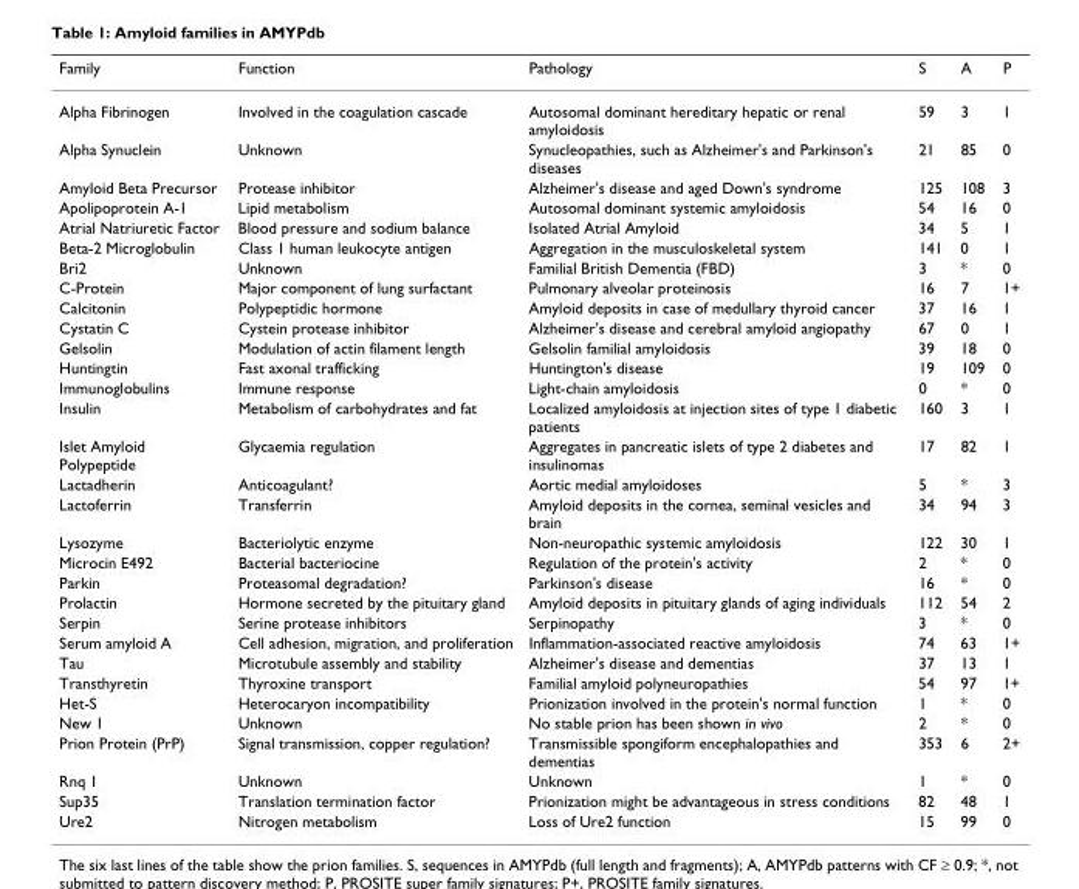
<table><thead><tr><td>Family</td><td>Function</td><td>Pathology</td><td>S</td><td>A</td><td>P</td></tr></thead><tbody><tr><td>Alpha Fibrinogen</td><td>Involved in the coagulation cascade</td><td>Autosomal dominant hereditary hepatic or renal amyloidosis</td><td>59</td><td>3</td><td>1</td></tr><tr><td>Alpha Synuclein</td><td>Unknown</td><td>Synucleopathies, such as Alzheimer&#x27;s and Parkinson&#x27;s diseases</td><td>21</td><td>85</td><td>0</td></tr><tr><td>Amyloid Beta Precursor</td><td>Protease inhibitor</td><td>Alzheimer&#x27;s disease and aged Down&#x27;s syndrome</td><td>125</td><td>108</td><td>3</td></tr><tr><td>Apolipoprotein A-1</td><td>Lipid metabolism</td><td>Autosomal dominant systemic amyloidosis</td><td>54</td><td>16</td><td>0</td></tr><tr><td>Atrial Natriuretic Factor</td><td>Blood pressure and sodium balance</td><td>Isolated Atrial Amyloid</td><td>34</td><td>5</td><td>1</td></tr><tr><td>Beta-2 Microglobulin</td><td>Class 1 human leukocyte antigen</td><td>Aggregation in the musculoskeletal system</td><td>141</td><td>0</td><td>1</td></tr><tr><td>Bri2</td><td>Unknown</td><td>Familial British Dementia (FBD)</td><td>3</td><td>*</td><td>0</td></tr><tr><td>C-Protein</td><td>Major component of lung surfactant</td><td>Pulmonary alveolar proteinosis</td><td>16</td><td>7</td><td>1+</td></tr><tr><td>Calcitonin</td><td>Polypeptidic hormone</td><td>Amyloid deposits in case of medullary thyroid cancer</td><td>37</td><td>16</td><td>1</td></tr><tr><td>Cystatin C</td><td>Cystein protease inhibitor</td><td>Alzheimer&#x27;s disease and cerebral amyloid angiopathy</td><td>67</td><td>0</td><td>1</td></tr><tr><td>Gelsolin</td><td>Modulation of actin filament length</td><td>Gelsolin familial amyloidosis</td><td>39</td><td>18</td><td>0</td></tr><tr><td>Huntingtin</td><td>Fast axonal trafficking</td><td>Huntington&#x27;s disease</td><td>19</td><td>109</td><td>0</td></tr><tr><td>Immunoglobulins</td><td>Immune response</td><td>Light-chain amyloidosis</td><td>0</td><td>*</td><td>0</td></tr><tr><td>Insulin</td><td>Metabolism of carbohydrates and fat</td><td>Localized amyloidosis at injection sites of type 1 diabetic patients</td><td>160</td><td>3</td><td>1</td></tr><tr><td>Islet Amyloid Polypeptide</td><td>Glycaemia regulation</td><td>Aggregates in pancreatic islets of type 2 diabetes and insulinomas</td><td>17</td><td>82</td><td>1</td></tr><tr><td>Lactadherin</td><td>Anticoagulant?</td><td>Aortic medial amyloidoses</td><td>5</td><td>*</td><td>3</td></tr><tr><td>Lactoferrin</td><td>Transferrin</td><td>Amyloid deposits in the cornea, seminal vesicles and brain</td><td>34</td><td>94</td><td>3</td></tr><tr><td>Lysozyme</td><td>Bacteriolytic enzyme</td><td>Non-neuropathic systemic amyloidosis</td><td>122</td><td>30</td><td>1</td></tr><tr><td>Microcin E492</td><td>Bacterial bacteriocine</td><td>Regulation of the protein&#x27;s activity</td><td>2</td><td>*</td><td>0</td></tr><tr><td>Parkin</td><td>Proteasomal degradation?</td><td>Parkinson&#x27;s disease</td><td>16</td><td>*</td><td>0</td></tr><tr><td>Prolactin</td><td>Hormone secreted by the pituitary gland</td><td>Amyloid deposits in pituitary glands of aging individuals</td><td>112</td><td>54</td><td>2</td></tr><tr><td>Serpin</td><td>Serine protease inhibitors</td><td>Serpinopathy</td><td>3</td><td>*</td><td>0</td></tr><tr><td>Serum amyloid A</td><td>Cell adhesion, migration, and proliferation</td><td>Inflammation-associated reactive amyloidosis</td><td>74</td><td>63</td><td>1+</td></tr><tr><td>Tau</td><td>Microtubule assembly and stability</td><td>Alzheimer&#x27;s disease and dementias</td><td>37</td><td>13</td><td>1</td></tr><tr><td>Transthyretin</td><td>Thyroxine transport</td><td>Familial amyloid polyneuropathies</td><td>54</td><td>97</td><td>1+</td></tr><tr><td>Het-S</td><td>Heterocaryon incompatibility</td><td>Prionization involved in the protein&#x27;s normal function</td><td>1</td><td>*</td><td>0</td></tr><tr><td>New 1</td><td>Unknown</td><td>No stable prion has been shown in vivo</td><td>2</td><td>*</td><td>0</td></tr><tr><td>Prion Protein (PrP)</td><td>Signal transmission, copper regulation?</td><td>Transmissible spongiform encephalopathies and dementias</td><td>353</td><td>6</td><td>2+</td></tr><tr><td>Rnq 1</td><td>Unknown</td><td>Unknown</td><td>1</td><td>*</td><td>0</td></tr><tr><td>Sup35</td><td>Translation termination factor</td><td>Prionization might be advantageous in stress conditions</td><td>82</td><td>48</td><td>1</td></tr><tr><td>Ure2</td><td>Nitrogen metabolism</td><td>Loss of Ure2 function</td><td>15</td><td>99</td><td>0</td></tr></tbody></table>